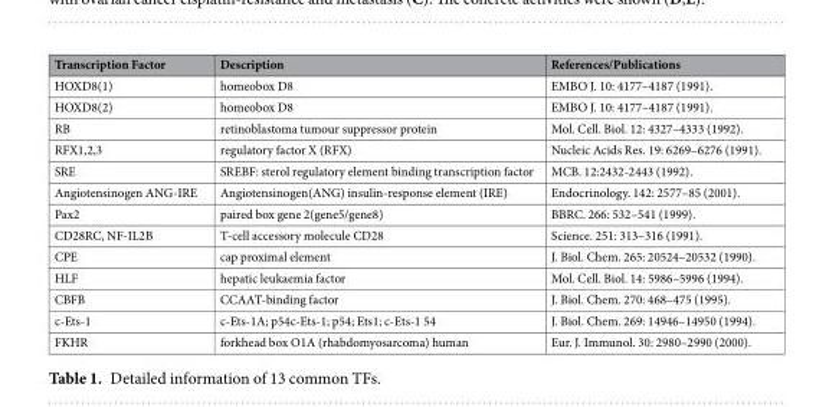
<table><thead><tr><td>Transcription Factor</td><td>Description</td><td>References/Publications</td></tr></thead><tbody><tr><td>HOXD8(1)</td><td>homeobox D8</td><td>EMBO J. 10: 4177–4187 (1991).</td></tr><tr><td>HOXD8(2)</td><td>homeobox D8</td><td>EMBO J. 10: 4177–4187 (1991).</td></tr><tr><td>RB</td><td>retinoblastoma tumour suppressor protein</td><td>Mol. Cell. Biol. 12: 4327–4333 (1992).</td></tr><tr><td>RFX1,2,3</td><td>regulatory factor X (RFX)</td><td>Nucleic Acids Res. 19: 6269–6276 (1991).</td></tr><tr><td>SRE</td><td>SREBF: sterol regulatory element binding transcription factor</td><td>MCB. 12:2432-2443 (1992).</td></tr><tr><td>Angiotensinogen ANG-IRE</td><td>Angiotensinogen(ANG) insulin-response element (IRE)</td><td>Endocrinology. 142: 2577–85 (2001).</td></tr><tr><td>Pax2</td><td>paired box gene 2(gene5/gene8)</td><td>BBRC. 266: 532–541 (1999).</td></tr><tr><td>CD28RC, NF-IL2B</td><td>T-cell accessory molecule CD28</td><td>Science. 251: 313–316 (1991).</td></tr><tr><td>CPE</td><td>cap proximal element</td><td>J. Biol. Chem. 265: 20524–20532 (1990).</td></tr><tr><td>HLF</td><td>hepatic leukaemia factor</td><td>Mol. Cell. Biol. 14: 5986–5996 (1994).</td></tr><tr><td>CBFB</td><td>CCAAT-binding factor</td><td>J. Biol. Chem. 270: 468–475 (1995).</td></tr><tr><td>c-Ets-1</td><td>c-Ets-1A; p54c-Ets-1; p54; Ets1; c-Ets-1 54</td><td>J. Biol. Chem. 269: 14946–14950 (1994).</td></tr><tr><td>FKHR</td><td>forkhead box O1A (rhabdomyosarcoma) human</td><td>Eur. J. Immunol. 30: 2980–2990 (2000).</td></tr></tbody></table>